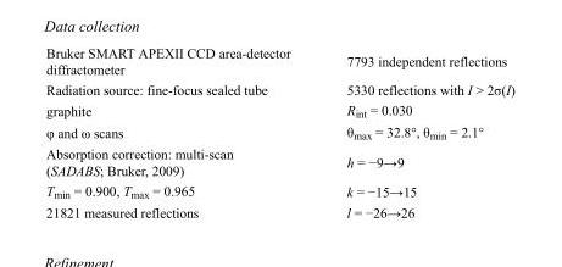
<table><tbody><tr><td>Bruker SMART APEXII CCD area-detector diffractometer</td><td>7793 independent reflections</td></tr><tr><td>Radiation source: fine-focus sealed tube</td><td>5330 reflections with I &gt; 2σ(I)</td></tr><tr><td>graphite</td><td>R<sub>int</sub> = 0.030</td></tr><tr><td>φ and ω scans</td><td>θ<sub>max</sub> = 32.8°, θ<sub>min</sub> = 2.1°</td></tr><tr><td>Absorption correction: multi-scan (SADABS; Bruker, 2009)</td><td>h = −9→9</td></tr><tr><td>T<sub>min</sub> = 0.900, T<sub>max</sub> = 0.965</td><td>k = −15→15</td></tr><tr><td>21821 measured reflections</td><td>l = −26→26</td></tr></tbody></table>